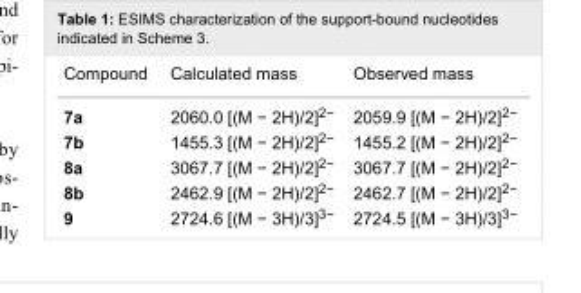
<table><tbody><tr><td>Compound</td><td>Calculated mass</td><td>Observed mass</td></tr><tr><td>7a</td><td>2060.0 [(M − 2H)/2]<sup>2−</sup></td><td>2059.9 [(M − 2H)/2]<sup>2−</sup></td></tr><tr><td>7b</td><td>1455.3 [(M − 2H)/2]<sup>2−</sup></td><td>1455.2 [(M − 2H)/2]<sup>2−</sup></td></tr><tr><td>8a</td><td>3067.7 [(M − 2H)/2]<sup>2−</sup></td><td>3067.7 [(M − 2H)/2]<sup>2−</sup></td></tr><tr><td>8b</td><td>2462.9 [(M − 2H)/2]<sup>2−</sup></td><td>2462.7 [(M − 2H)/2]<sup>2−</sup></td></tr><tr><td>9</td><td>2724.6 [(M − 3H)/3]<sup>3−</sup></td><td>2724.5 [(M − 3H)/3]<sup>3−</sup></td></tr></tbody></table>